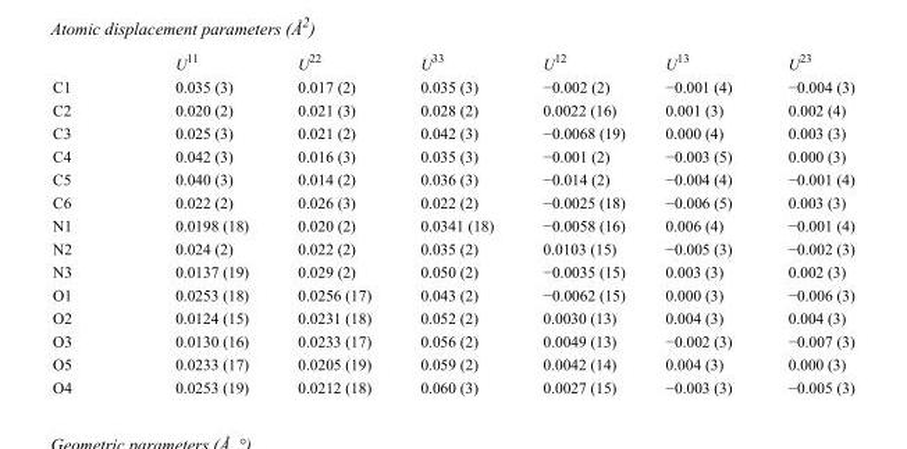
<table><thead><tr><td></td><td>U<sup>11</sup></td><td>U<sup>22</sup></td><td>U<sup>33</sup></td><td>U<sup>12</sup></td><td>U<sup>13</sup></td><td>U<sup>23</sup></td></tr></thead><tbody><tr><td>C1</td><td>0.035 (3)</td><td>0.017 (2)</td><td>0.035 (3)</td><td>−0.002 (2)</td><td>−0.001 (4)</td><td>−0.004 (3)</td></tr><tr><td>C2</td><td>0.020 (2)</td><td>0.021 (3)</td><td>0.028 (2)</td><td>0.0022 (16)</td><td>0.001 (3)</td><td>0.002 (4)</td></tr><tr><td>C3</td><td>0.025 (3)</td><td>0.021 (2)</td><td>0.042 (3)</td><td>−0.0068 (19)</td><td>0.000 (4)</td><td>0.003 (3)</td></tr><tr><td>C4</td><td>0.042 (3)</td><td>0.016 (3)</td><td>0.035 (3)</td><td>−0.001 (2)</td><td>−0.003 (5)</td><td>0.000 (3)</td></tr><tr><td>C5</td><td>0.040 (3)</td><td>0.014 (2)</td><td>0.036 (3)</td><td>−0.014 (2)</td><td>−0.004 (4)</td><td>−0.001 (4)</td></tr><tr><td>C6</td><td>0.022 (2)</td><td>0.026 (3)</td><td>0.022 (2)</td><td>−0.0025 (18)</td><td>−0.006 (5)</td><td>0.003 (3)</td></tr><tr><td>N1</td><td>0.0198 (18)</td><td>0.020 (2)</td><td>0.0341 (18)</td><td>−0.0058 (16)</td><td>0.006 (4)</td><td>−0.001 (4)</td></tr><tr><td>N2</td><td>0.024 (2)</td><td>0.022 (2)</td><td>0.035 (2)</td><td>0.0103 (15)</td><td>−0.005 (3)</td><td>−0.002 (3)</td></tr><tr><td>N3</td><td>0.0137 (19)</td><td>0.029 (2)</td><td>0.050 (2)</td><td>−0.0035 (15)</td><td>0.003 (3)</td><td>0.002 (3)</td></tr><tr><td>O1</td><td>0.0253 (18)</td><td>0.0256 (17)</td><td>0.043 (2)</td><td>−0.0062 (15)</td><td>0.000 (3)</td><td>−0.006 (3)</td></tr><tr><td>O2</td><td>0.0124 (15)</td><td>0.0231 (18)</td><td>0.052 (2)</td><td>0.0030 (13)</td><td>0.004 (3)</td><td>0.004 (3)</td></tr><tr><td>O3</td><td>0.0130 (16)</td><td>0.0233 (17)</td><td>0.056 (2)</td><td>0.0049 (13)</td><td>−0.002 (3)</td><td>−0.007 (3)</td></tr><tr><td>O5</td><td>0.0233 (17)</td><td>0.0205 (19)</td><td>0.059 (2)</td><td>0.0042 (14)</td><td>0.004 (3)</td><td>0.000 (3)</td></tr><tr><td>O4</td><td>0.0253 (19)</td><td>0.0212 (18)</td><td>0.060 (3)</td><td>0.0027 (15)</td><td>−0.003 (3)</td><td>−0.005 (3)</td></tr></tbody></table>